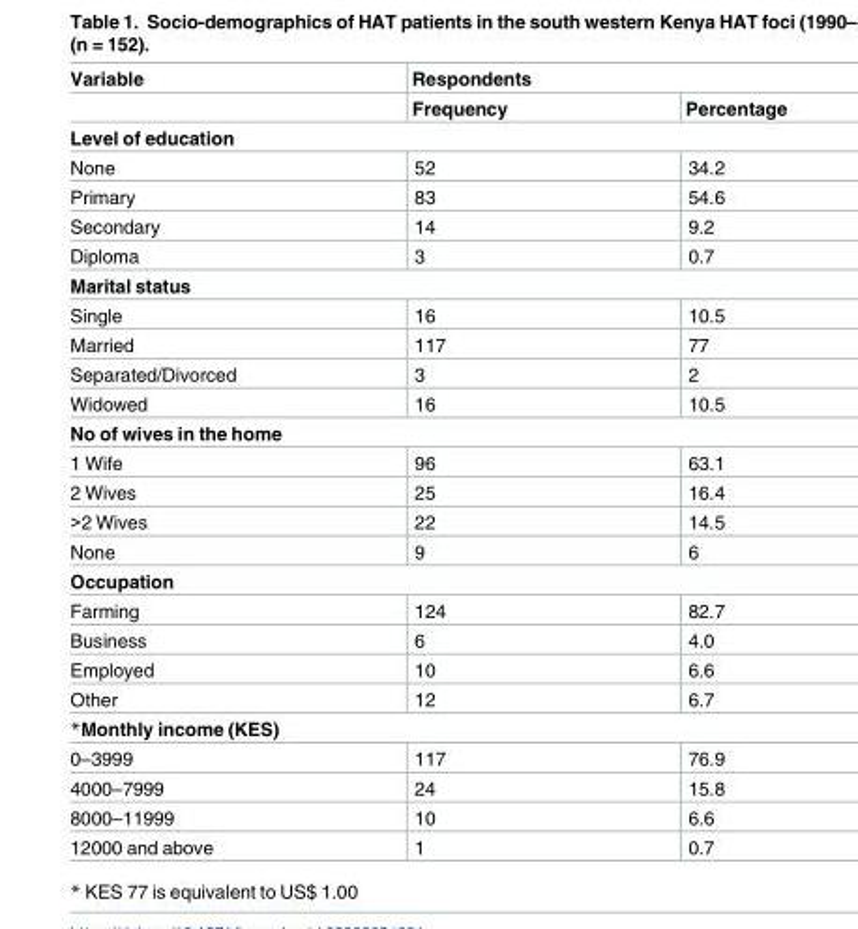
<table><thead><tr><td rowspan="2">Variable</td><td colspan="2">Respondents</td></tr><tr><td>Frequency</td><td>Percentage</td></tr></thead><tbody><tr><td colspan="3">Level of education</td></tr><tr><td>None</td><td>52</td><td>34.2</td></tr><tr><td>Primary</td><td>83</td><td>54.6</td></tr><tr><td>Secondary</td><td>14</td><td>9.2</td></tr><tr><td>Diploma</td><td>3</td><td>0.7</td></tr><tr><td colspan="3">Marital status</td></tr><tr><td>Single</td><td>16</td><td>10.5</td></tr><tr><td>Married</td><td>117</td><td>77</td></tr><tr><td>Separated/Divorced</td><td>3</td><td>2</td></tr><tr><td>Widowed</td><td>16</td><td>10.5</td></tr><tr><td colspan="3">No of wives in the home</td></tr><tr><td>1 Wife</td><td>96</td><td>63.1</td></tr><tr><td>2 Wives</td><td>25</td><td>16.4</td></tr><tr><td>&gt;2 Wives</td><td>22</td><td>14.5</td></tr><tr><td>None</td><td>9</td><td>6</td></tr><tr><td colspan="3">Occupation</td></tr><tr><td>Farming</td><td>124</td><td>82.7</td></tr><tr><td>Business</td><td>6</td><td>4.0</td></tr><tr><td>Employed</td><td>10</td><td>6.6</td></tr><tr><td>Other</td><td>12</td><td>6.7</td></tr><tr><td colspan="3">*Monthly income (KES)</td></tr><tr><td>0–3999</td><td>117</td><td>76.9</td></tr><tr><td>4000–7999</td><td>24</td><td>15.8</td></tr><tr><td>8000–11999</td><td>10</td><td>6.6</td></tr><tr><td>12000 and above</td><td>1</td><td>0.7</td></tr></tbody></table>